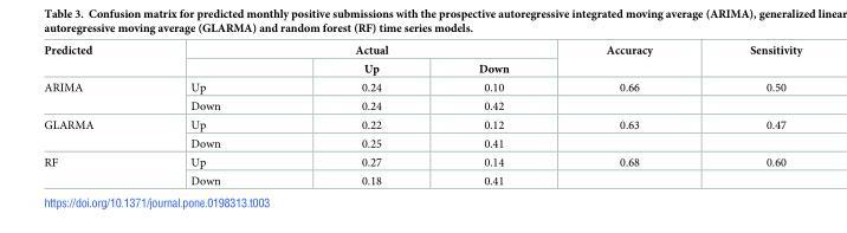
<table><thead><tr><td rowspan="2">Predicted</td><td colspan="3">Actual</td><td rowspan="2">Accuracy</td><td rowspan="2">Sensitivity</td></tr><tr><td></td><td>Up</td><td>Down</td></tr></thead><tbody><tr><td rowspan="2">ARIMA</td><td>Up</td><td>0.24</td><td>0.10</td><td>0.66</td><td>0.50</td></tr><tr><td>Down</td><td>0.24</td><td>0.42</td><td></td><td></td></tr><tr><td rowspan="2">GLARMA</td><td>Up</td><td>0.22</td><td>0.12</td><td>0.63</td><td>0.47</td></tr><tr><td>Down</td><td>0.25</td><td>0.41</td><td></td><td></td></tr><tr><td rowspan="2">RF</td><td>Up</td><td>0.27</td><td>0.14</td><td>0.68</td><td>0.60</td></tr><tr><td>Down</td><td>0.18</td><td>0.41</td><td></td><td></td></tr></tbody></table>